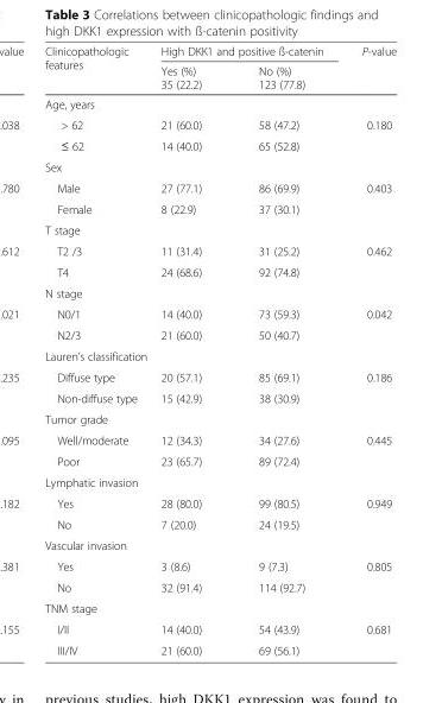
<table><thead><tr><td rowspan="2">Clinicopathologic features</td><td colspan="2">High DKK1 and positive ß-catenin</td><td rowspan="2">P-value</td></tr><tr><td>Yes (%) 35 (22.2)</td><td>No (%) 123 (77.8)</td></tr></thead><tbody><tr><td colspan="4">Age, years</td></tr><tr><td>&gt; 62</td><td>21 (60.0)</td><td>58 (47.2)</td><td>0.180</td></tr><tr><td>≤ 62</td><td>14 (40.0)</td><td>65 (52.8)</td><td></td></tr><tr><td colspan="4">Sex</td></tr><tr><td>Male</td><td>27 (77.1)</td><td>86 (69.9)</td><td>0.403</td></tr><tr><td>Female</td><td>8 (22.9)</td><td>37 (30.1)</td><td></td></tr><tr><td colspan="4">T stage</td></tr><tr><td>T2 /3</td><td>11 (31.4)</td><td>31 (25.2)</td><td>0.462</td></tr><tr><td>T4</td><td>24 (68.6)</td><td>92 (74.8)</td><td></td></tr><tr><td colspan="4">N stage</td></tr><tr><td>N0/1</td><td>14 (40.0)</td><td>73 (59.3)</td><td>0.042</td></tr><tr><td>N2/3</td><td>21 (60.0)</td><td>50 (40.7)</td><td></td></tr><tr><td colspan="4">Lauren’s classification</td></tr><tr><td>Diffuse type</td><td>20 (57.1)</td><td>85 (69.1)</td><td>0.186</td></tr><tr><td>Non-diffuse type</td><td>15 (42.9)</td><td>38 (30.9)</td><td></td></tr><tr><td colspan="4">Tumor grade</td></tr><tr><td>Well/moderate</td><td>12 (34.3)</td><td>34 (27.6)</td><td>0.445</td></tr><tr><td>Poor</td><td>23 (65.7)</td><td>89 (72.4)</td><td></td></tr><tr><td colspan="4">Lymphatic invasion</td></tr><tr><td>Yes</td><td>28 (80.0)</td><td>99 (80.5)</td><td>0.949</td></tr><tr><td>No</td><td>7 (20.0)</td><td>24 (19.5)</td><td></td></tr><tr><td colspan="4">Vascular invasion</td></tr><tr><td>Yes</td><td>3 (8.6)</td><td>9 (7.3)</td><td>0.805</td></tr><tr><td>No</td><td>32 (91.4)</td><td>114 (92.7)</td><td></td></tr><tr><td colspan="4">TNM stage</td></tr><tr><td>I/II</td><td>14 (40.0)</td><td>54 (43.9)</td><td>0.681</td></tr><tr><td>III/IV</td><td>21 (60.0)</td><td>69 (56.1)</td><td></td></tr></tbody></table>